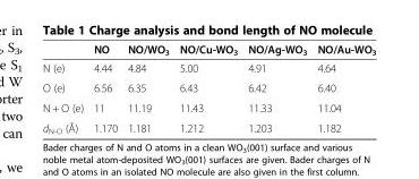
<table><thead><tr><td></td><td>NO</td><td>NO/WO<sub>3</sub></td><td>NO/Cu-WO<sub>3</sub></td><td>NO/Ag-WO<sub>3</sub></td><td>NO/Au-WO<sub>3</sub></td></tr></thead><tbody><tr><td>N (e)</td><td>4.44</td><td>4.84</td><td>5.00</td><td>4.91</td><td>4.64</td></tr><tr><td>O (e)</td><td>6.56</td><td>6.35</td><td>6.43</td><td>6.42</td><td>6.40</td></tr><tr><td>N + O (e)</td><td>11</td><td>11.19</td><td>11.43</td><td>11.33</td><td>11.04</td></tr><tr><td>d<sub>N-O</sub> (Å)</td><td>1.170</td><td>1.181</td><td>1.212</td><td>1.203</td><td>1.182</td></tr></tbody></table>